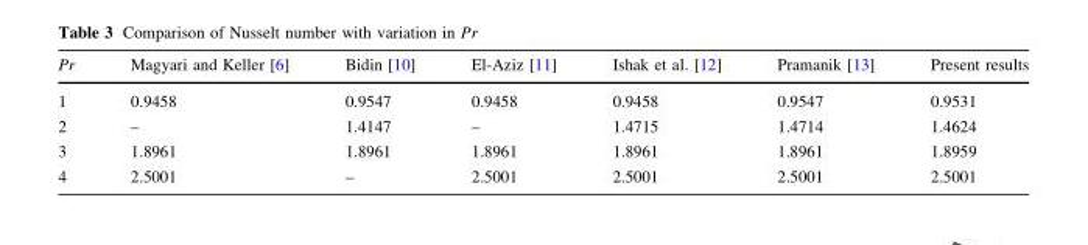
<table><thead><tr><td>Pr</td><td>Magyari and Keller [6]</td><td>Bidin [10]</td><td>El-Aziz [11]</td><td>Ishak et al. [12]</td><td>Pramanik [13]</td><td>Present results</td></tr></thead><tbody><tr><td>1</td><td>0.9458</td><td>0.9547</td><td>0.9458</td><td>0.9458</td><td>0.9547</td><td>0.9531</td></tr><tr><td>2</td><td>–</td><td>1.4147</td><td>–</td><td>1.4715</td><td>1.4714</td><td>1.4624</td></tr><tr><td>3</td><td>1.8961</td><td>1.8961</td><td>1.8961</td><td>1.8961</td><td>1.8961</td><td>1.8959</td></tr><tr><td>4</td><td>2.5001</td><td>–</td><td>2.5001</td><td>2.5001</td><td>2.5001</td><td>2.5001</td></tr></tbody></table>